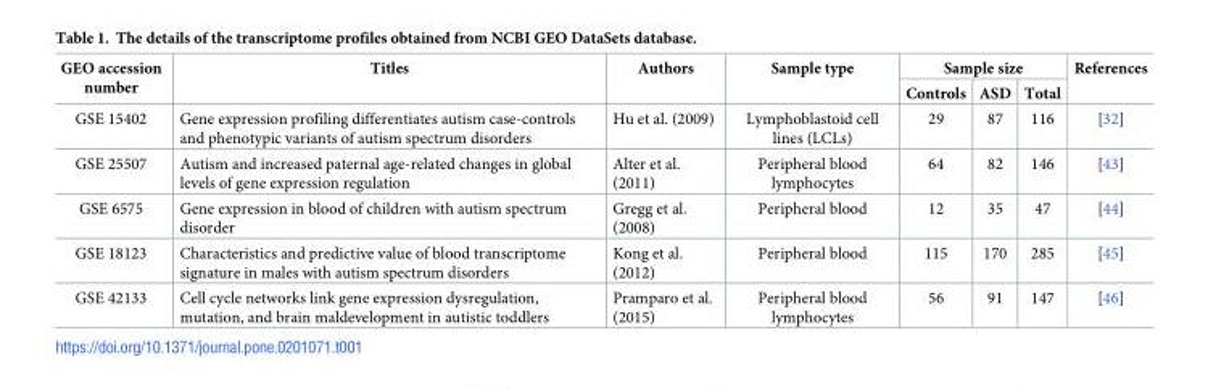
<table><thead><tr><td rowspan="2">GEO accession number</td><td rowspan="2">Titles</td><td rowspan="2">Authors</td><td rowspan="2">Sample type</td><td colspan="3">Sample size</td><td rowspan="2">References</td></tr><tr><td>Controls</td><td>ASD</td><td>Total</td></tr></thead><tbody><tr><td>GSE 15402</td><td>Gene expression profiling differentiates autism case-controls and phenotypic variants of autism spectrum disorders</td><td>Hu et al. (2009)</td><td>Lymphoblastoid cell lines (LCLs)</td><td>29</td><td>87</td><td>116</td><td>[32]</td></tr><tr><td>GSE 25507</td><td>Autism and increased paternal age-related changes in global levels of gene expression regulation</td><td>Alter et al. (2011)</td><td>Peripheral blood lymphocytes</td><td>64</td><td>82</td><td>146</td><td>[43]</td></tr><tr><td>GSE 6575</td><td>Gene expression in blood of children with autism spectrum disorder</td><td>Gregg et al. (2008)</td><td>Peripheral blood</td><td>12</td><td>35</td><td>47</td><td>[44]</td></tr><tr><td>GSE 18123</td><td>Characteristics and predictive value of blood transcriptome signature in males with autism spectrum disorders</td><td>Kong et al. (2012)</td><td>Peripheral blood</td><td>115</td><td>170</td><td>285</td><td>[45]</td></tr><tr><td>GSE 42133</td><td>Cell cycle networks link gene expression dysregulation, mutation, and brain maldevelopment in autistic toddlers</td><td>Pramparo et al. (2015)</td><td>Peripheral blood lymphocytes</td><td>56</td><td>91</td><td>147</td><td>[46]</td></tr></tbody></table>